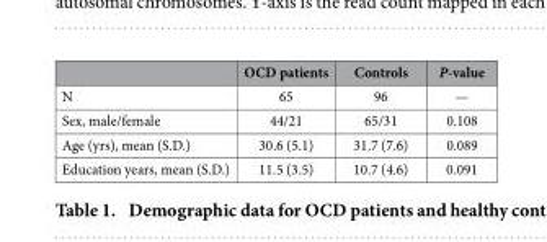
<table><thead><tr><td></td><td>OCD patients</td><td>Controls</td><td>P-value</td></tr></thead><tbody><tr><td>N</td><td>65</td><td>96</td><td>—</td></tr><tr><td>Sex, male/female</td><td>44/21</td><td>65/31</td><td>0.108</td></tr><tr><td>Age (yrs), mean (S.D.)</td><td>30.6 (5.1)</td><td>31.7 (7.6)</td><td>0.089</td></tr><tr><td>Education years, mean (S.D.)</td><td>11.5 (3.5)</td><td>10.7 (4.6)</td><td>0.091</td></tr></tbody></table>